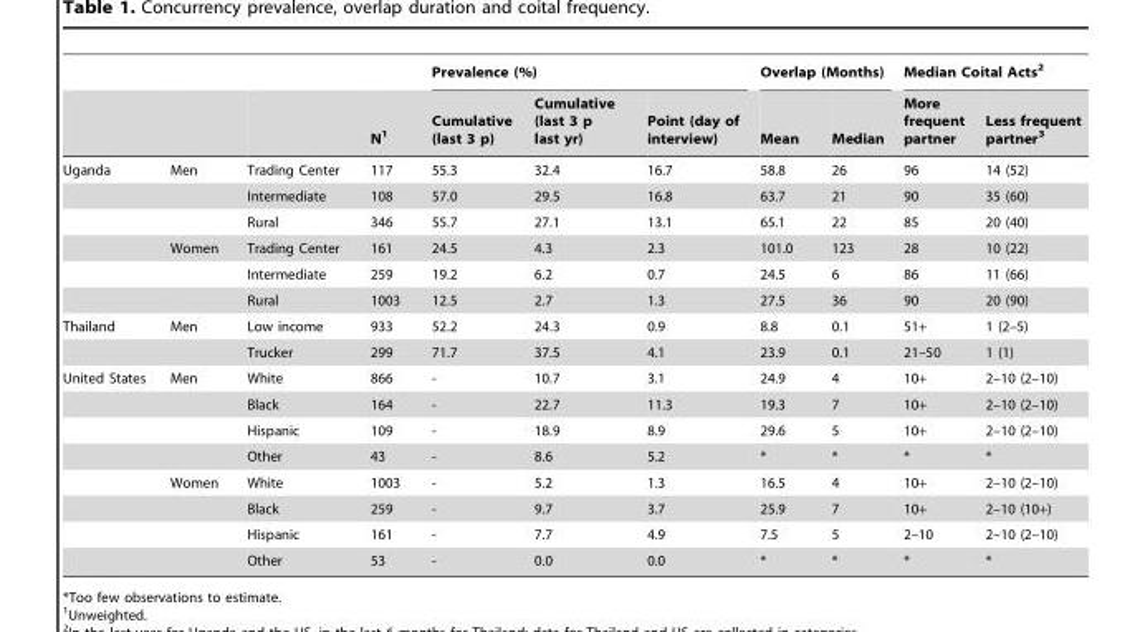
<table><thead><tr><td rowspan="2"></td><td rowspan="2"></td><td rowspan="2"></td><td rowspan="2">N<sup>1</sup></td><td colspan="3">Prevalence (%)</td><td colspan="2">Overlap (Months)</td><td colspan="2">Median Coital Acts<sup>2</sup></td></tr><tr><td>Cumulative (last 3 p)</td><td>Cumulative (last 3 p last yr)</td><td>Point (day of interview)</td><td>Mean</td><td>Median</td><td>More frequent partner</td><td>Less frequent partner<sup>3</sup></td></tr></thead><tbody><tr><td rowspan="6">Uganda</td><td>Men</td><td>Trading Center</td><td>117</td><td>55.3</td><td>32.4</td><td>16.7</td><td>58.8</td><td>26</td><td>96</td><td>14 (52)</td></tr><tr><td></td><td>Intermediate</td><td>108</td><td>57.0</td><td>29.5</td><td>16.8</td><td>63.7</td><td>21</td><td>90</td><td>35 (60)</td></tr><tr><td></td><td>Rural</td><td>346</td><td>55.7</td><td>27.1</td><td>13.1</td><td>65.1</td><td>22</td><td>85</td><td>20 (40)</td></tr><tr><td>Women</td><td>Trading Center</td><td>161</td><td>24.5</td><td>4.3</td><td>2.3</td><td>101.0</td><td>123</td><td>28</td><td>10 (22)</td></tr><tr><td></td><td>Intermediate</td><td>259</td><td>19.2</td><td>6.2</td><td>0.7</td><td>24.5</td><td>6</td><td>86</td><td>11 (66)</td></tr><tr><td></td><td>Rural</td><td>1003</td><td>12.5</td><td>2.7</td><td>1.3</td><td>27.5</td><td>36</td><td>90</td><td>20 (90)</td></tr><tr><td rowspan="2">Thailand</td><td>Men</td><td>Low income</td><td>933</td><td>52.2</td><td>24.3</td><td>0.9</td><td>8.8</td><td>0.1</td><td>51+</td><td>1 (2–5)</td></tr><tr><td></td><td>Trucker</td><td>299</td><td>71.7</td><td>37.5</td><td>4.1</td><td>23.9</td><td>0.1</td><td>21–50</td><td>1 (1)</td></tr><tr><td rowspan="8">United States</td><td>Men</td><td>White</td><td>866</td><td>-</td><td>10.7</td><td>3.1</td><td>24.9</td><td>4</td><td>10+</td><td>2–10 (2–10)</td></tr><tr><td></td><td>Black</td><td>164</td><td>-</td><td>22.7</td><td>11.3</td><td>19.3</td><td>7</td><td>10+</td><td>2–10 (2–10)</td></tr><tr><td></td><td>Hispanic</td><td>109</td><td>-</td><td>18.9</td><td>8.9</td><td>29.6</td><td>5</td><td>10+</td><td>2–10 (2–10)</td></tr><tr><td></td><td>Other</td><td>43</td><td>-</td><td>8.6</td><td>5.2</td><td>*</td><td>*</td><td>*</td><td>*</td></tr><tr><td>Women</td><td>White</td><td>1003</td><td>-</td><td>5.2</td><td>1.3</td><td>16.5</td><td>4</td><td>10+</td><td>2–10 (2–10)</td></tr><tr><td></td><td>Black</td><td>259</td><td>-</td><td>9.7</td><td>3.7</td><td>25.9</td><td>7</td><td>10+</td><td>2–10 (10+)</td></tr><tr><td></td><td>Hispanic</td><td>161</td><td>-</td><td>7.7</td><td>4.9</td><td>7.5</td><td>5</td><td>2–10</td><td>2–10 (2–10)</td></tr><tr><td></td><td>Other</td><td>53</td><td>-</td><td>0.0</td><td>0.0</td><td>*</td><td>*</td><td>*</td><td>*</td></tr></tbody></table>